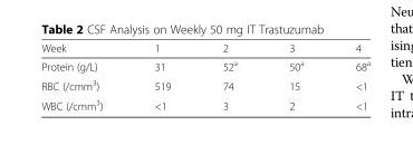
<table><thead><tr><td>Week</td><td>1</td><td>2</td><td>3</td><td>4</td></tr></thead><tbody><tr><td>Protein (g/L)</td><td>31</td><td>52<sup>a</sup></td><td>50<sup>a</sup></td><td>68<sup>a</sup></td></tr><tr><td>RBC (/cmm<sup>3</sup>)</td><td>519</td><td>74</td><td>15</td><td>&lt;1</td></tr><tr><td>WBC (/cmm<sup>3</sup>)</td><td>&lt;1</td><td>3</td><td>2</td><td>&lt;1</td></tr></tbody></table>